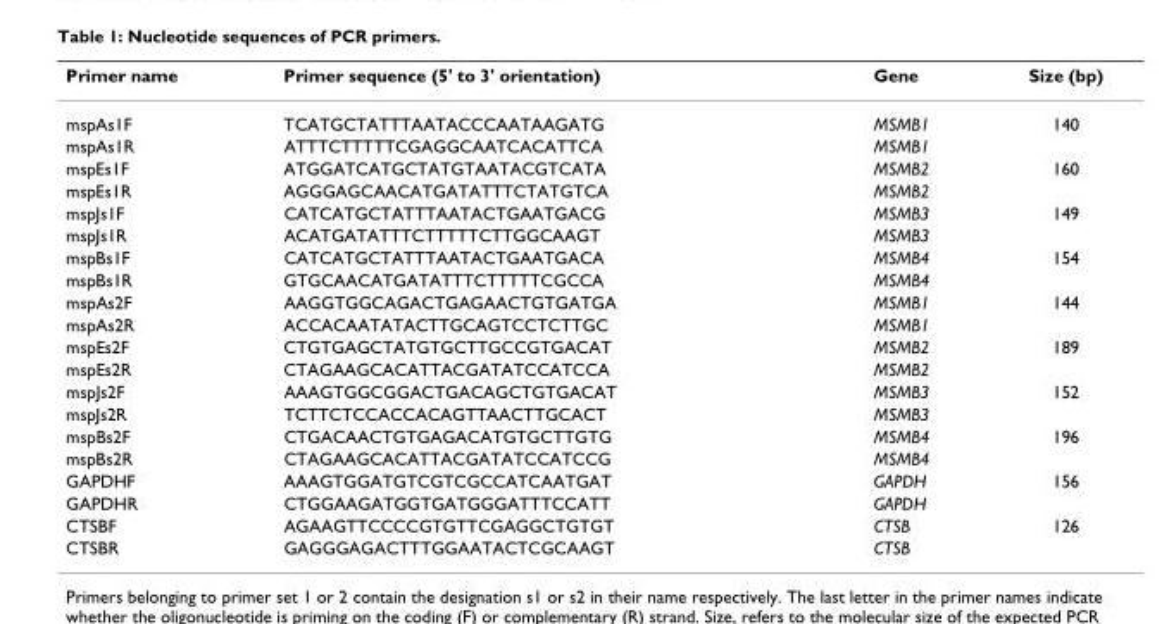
<table><thead><tr><td>Primer name</td><td>Primer sequence (5&#x27; to 3&#x27; orientation)</td><td>Gene</td><td>Size (bp)</td></tr></thead><tbody><tr><td>mspAs1F</td><td>TCATGCTATTTAATACCCAATAAGATG</td><td>MSMB1</td><td>140</td></tr><tr><td>mspAs1R</td><td>ATTTCTTTTTCGAGGCAATCACATTCA</td><td>MSMB1</td><td></td></tr><tr><td>mspEs1F</td><td>ATGGATCATGCTATGTAATACGTCATA</td><td>MSMB2</td><td>160</td></tr><tr><td>mspEs1R</td><td>AGGGAGCAACATGATATTTCTATGTCA</td><td>MSMB2</td><td></td></tr><tr><td>mspJs1F</td><td>CATCATGCTATTTAATACTGAATGACG</td><td>MSMB3</td><td>149</td></tr><tr><td>mspJs1R</td><td>ACATGATATTTCTTTTTCTTGGCAAGT</td><td>MSMB3</td><td></td></tr><tr><td>mspBs1F</td><td>CATCATGCTATTTAATACTGAATGACA</td><td>MSMB4</td><td>154</td></tr><tr><td>mspBs1R</td><td>GTGCAACATGATATTTCTTTTTCGCCA</td><td>MSMB4</td><td></td></tr><tr><td>mspAs2F</td><td>AAGGTGGCAGACTGAGAACTGTGATGA</td><td>MSMB1</td><td>144</td></tr><tr><td>mspAs2R</td><td>ACCACAATATACTTGCAGTCCTCTTGC</td><td>MSMB1</td><td></td></tr><tr><td>mspEs2F</td><td>CTGTGAGCTATGTGCTTGCCGTGACAT</td><td>MSMB2</td><td>189</td></tr><tr><td>mspEs2R</td><td>CTAGAAGCACATTACGATATCCATCCA</td><td>MSMB2</td><td></td></tr><tr><td>mspJs2F</td><td>AAAGTGGCGGACTGACAGCTGTGACAT</td><td>MSMB3</td><td>152</td></tr><tr><td>mspJs2R</td><td>TCTTCTCCACCACAGTTAACTTGCACT</td><td>MSMB3</td><td></td></tr><tr><td>mspBs2F</td><td>CTGACAACTGTGAGACATGTGCTTGTG</td><td>MSMB4</td><td>196</td></tr><tr><td>mspBs2R</td><td>CTAGAAGCACATTACGATATCCATCCG</td><td>MSMB4</td><td></td></tr><tr><td>GAPDHF</td><td>AAAGTGGATGTCGTCGCCATCAATGAT</td><td>GAPDH</td><td>156</td></tr><tr><td>GAPDHR</td><td>CTGGAAGATGGTGATGGGATTTCCATT</td><td>GAPDH</td><td></td></tr><tr><td>CTSBF</td><td>AGAAGTTCCCCGTGTTCGAGGCTGTGT</td><td>CTSB</td><td>126</td></tr><tr><td>CTSBR</td><td>GAGGGAGACTTTGGAATACTCGCAAGT</td><td>CTSB</td><td></td></tr></tbody></table>